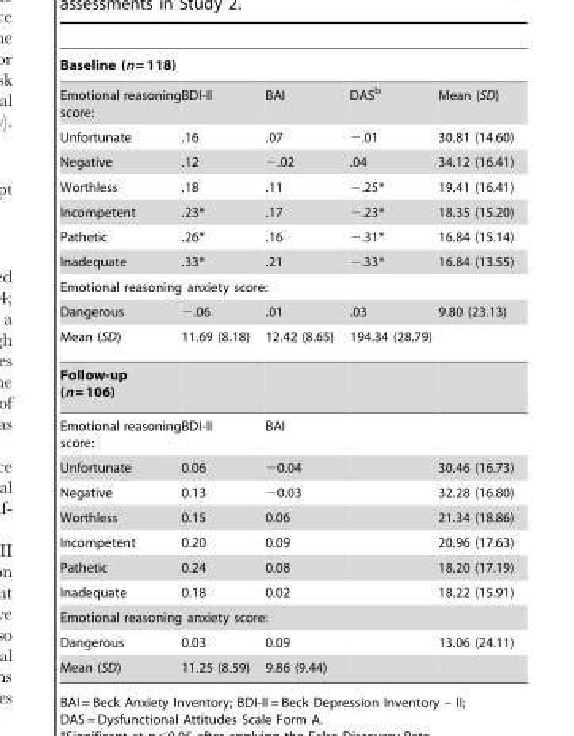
<table><thead><tr><td>Baseline (n = 118)</td><td></td><td></td><td></td><td></td></tr></thead><tbody><tr><td>Emotional reasoning score:</td><td>BDI-II</td><td>BAI</td><td>DAS<sup>b</sup></td><td>Mean (SD)</td></tr><tr><td>Unfortunate</td><td>.16</td><td>.07</td><td>−.01</td><td>30.81 (14.60)</td></tr><tr><td>Negative</td><td>.12</td><td>−.02</td><td>.04</td><td>34.12 (16.41)</td></tr><tr><td>Worthless</td><td>.18</td><td>.11</td><td>−.25*</td><td>19.41 (16.41)</td></tr><tr><td>Incompetent</td><td>.23*</td><td>.17</td><td>−.23*</td><td>18.35 (15.20)</td></tr><tr><td>Pathetic</td><td>.26*</td><td>.16</td><td>−.31*</td><td>16.84 (15.14)</td></tr><tr><td>Inadequate</td><td>.33*</td><td>.21</td><td>−.33*</td><td>16.84 (13.55)</td></tr><tr><td colspan="5">Emotional reasoning anxiety score:</td></tr><tr><td>Dangerous</td><td>−.06</td><td>.01</td><td>.03</td><td>9.80 (23.13)</td></tr><tr><td>Mean (SD)</td><td>11.69 (8.18)</td><td>12.42 (8.65)</td><td>194.34 (28.79)</td><td></td></tr><tr><td colspan="5">Follow-up (n = 106)</td></tr><tr><td>Emotional reasoning score:</td><td>BDI-II</td><td>BAI</td><td></td><td></td></tr><tr><td>Unfortunate</td><td>0.06</td><td>−0.04</td><td></td><td>30.46 (16.73)</td></tr><tr><td>Negative</td><td>0.13</td><td>−0.03</td><td></td><td>32.28 (16.80)</td></tr><tr><td>Worthless</td><td>0.15</td><td>0.06</td><td></td><td>21.34 (18.86)</td></tr><tr><td>Incompetent</td><td>0.20</td><td>0.09</td><td></td><td>20.96 (17.63)</td></tr><tr><td>Pathetic</td><td>0.24</td><td>0.08</td><td></td><td>18.20 (17.19)</td></tr><tr><td>Inadequate</td><td>0.18</td><td>0.02</td><td></td><td>18.22 (15.91)</td></tr><tr><td colspan="5">Emotional reasoning anxiety score:</td></tr><tr><td>Dangerous</td><td>0.03</td><td>0.09</td><td></td><td>13.06 (24.11)</td></tr><tr><td>Mean (SD)</td><td>11.25 (8.59)</td><td>9.86 (9.44)</td><td></td><td></td></tr></tbody></table>